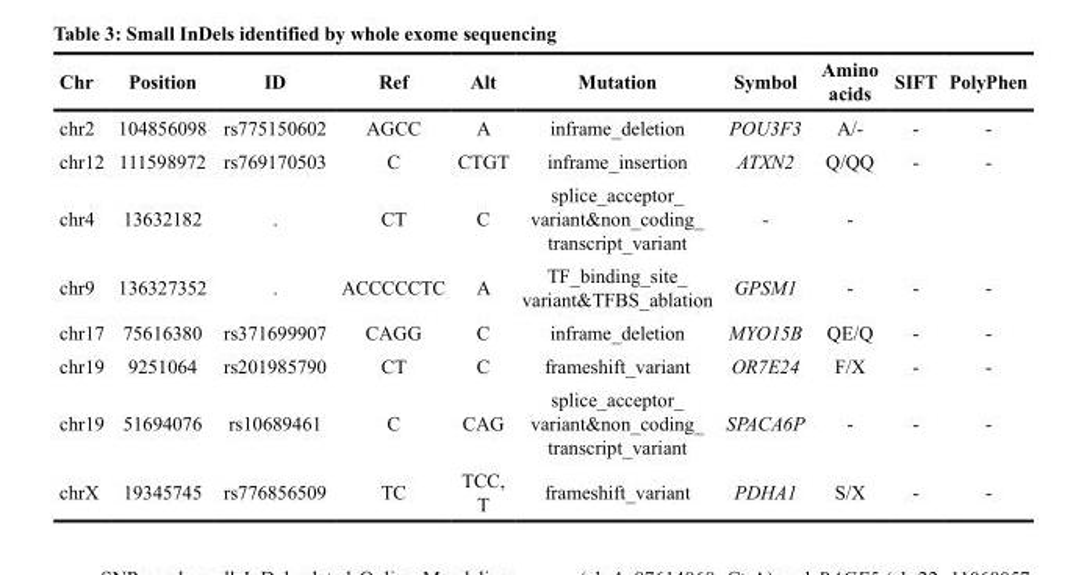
<table><thead><tr><td>Chr</td><td>Position</td><td>ID</td><td>Ref</td><td>Alt</td><td>Mutation</td><td>Symbol</td><td>Amino acids</td><td>SIFT</td><td>PolyPhen</td></tr></thead><tbody><tr><td>chr2</td><td>104856098</td><td>rs775150602</td><td>AGCC</td><td>A</td><td>inframe_deletion</td><td>POU3F3</td><td>A/-</td><td>-</td><td>-</td></tr><tr><td>chr12</td><td>111598972</td><td>rs769170503</td><td>C</td><td>CTGT</td><td>inframe_insertion</td><td>ATXN2</td><td>Q/QQ</td><td>-</td><td>-</td></tr><tr><td>chr4</td><td>13632182</td><td>.</td><td>CT</td><td>C</td><td>splice_acceptor_ variant&amp;non_coding_ transcript_variant</td><td>-</td><td>-</td><td></td><td></td></tr><tr><td>chr9</td><td>136327352</td><td>.</td><td>ACCCCCTC</td><td>A</td><td>TF_binding_site_ variant&amp;TFBS_ablation</td><td>GPSM1</td><td>-</td><td>-</td><td>-</td></tr><tr><td>chr17</td><td>75616380</td><td>rs371699907</td><td>CAGG</td><td>C</td><td>inframe_deletion</td><td>MYO15B</td><td>QE/Q</td><td>-</td><td>-</td></tr><tr><td>chr19</td><td>9251064</td><td>rs201985790</td><td>CT</td><td>C</td><td>frameshift_variant</td><td>OR7E24</td><td>F/X</td><td>-</td><td>-</td></tr><tr><td>chr19</td><td>51694076</td><td>rs10689461</td><td>C</td><td>CAG</td><td>splice_acceptor_ variant&amp;non_coding_ transcript_variant</td><td>SPACA6P</td><td>-</td><td>-</td><td>-</td></tr><tr><td>chrX</td><td>19345745</td><td>rs776856509</td><td>TC</td><td>TCC, T</td><td>frameshift_variant</td><td>PDHA1</td><td>S/X</td><td>-</td><td>-</td></tr></tbody></table>